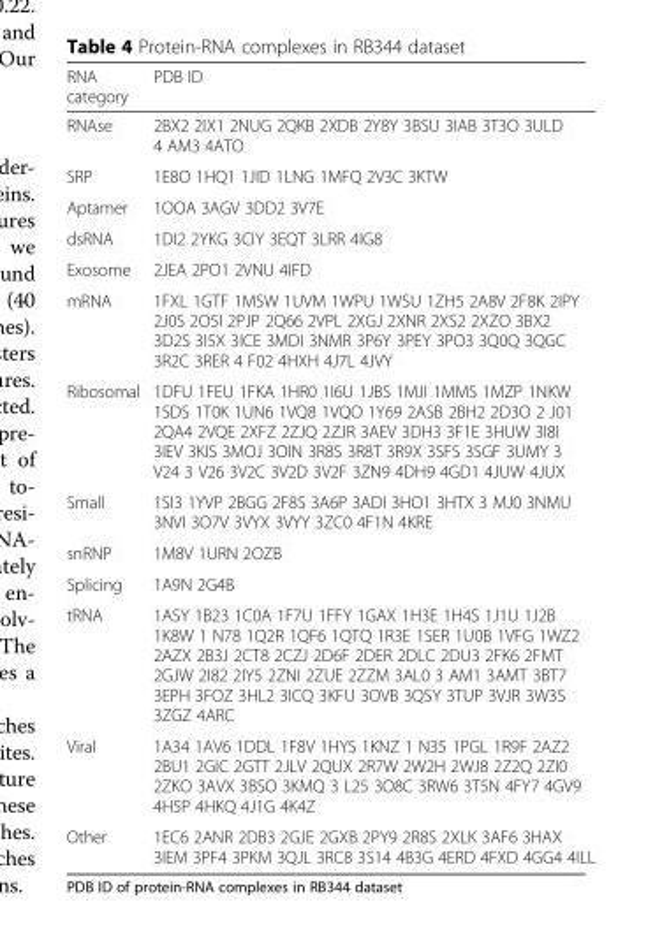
<table><thead><tr><td>RNA category</td><td>PDB ID</td></tr></thead><tbody><tr><td>RNAse</td><td>2BX2 2IX1 2NUG 2QKB 2XDB 2Y8Y 3BSU 3IAB 3T3O 3ULD 4 AM3 4ATO</td></tr><tr><td>SRP</td><td>1E8O 1HQ1 1JID 1LNG 1MFQ 2V3C 3KTW</td></tr><tr><td>Aptamer</td><td>1OOA 3AGV 3DD2 3V7E</td></tr><tr><td>dsRNA</td><td>1DI2 2YKG 3CIY 3EQT 3LRR 4IG8</td></tr><tr><td>Exosome</td><td>2JEA 2PO1 2VNU 4IFD</td></tr><tr><td>mRNA</td><td>1FXL 1GTF 1MSW 1UVM 1WPU 1WSU 1ZH5 2A8V 2F8K 2IPY 2J0S 2O5I 2PJP 2Q66 2VPL 2XGJ 2XNR 2XS2 2XZO 3BX2 3D2S 3I5X 3ICE 3MDI 3NMR 3P6Y 3PEY 3PO3 3Q0Q 3QGC 3R2C 3RER 4 F02 4HXH 4J7L 4JVY</td></tr><tr><td>Ribosomal</td><td>1DFU 1FEU 1FKA 1HR0 1I6U 1JBS 1MJI 1MMS 1MZP 1NKW 1SDS 1T0K 1UN6 1VQ8 1VQO 1Y69 2ASB 2BH2 2D3O 2 J01 2QA4 2VQE 2XFZ 2ZJQ 2ZJR 3AEV 3DH3 3F1E 3HUW 3I8I 3IEV 3KIS 3MOJ 3OIN 3R8S 3R8T 3R9X 3SFS 3SGF 3UMY 3 V24 3 V26 3V2C 3V2D 3V2F 3ZN9 4DH9 4GD1 4JUW 4JUX</td></tr><tr><td>Small</td><td>1SI3 1YVP 2BGG 2F8S 3A6P 3ADI 3HO1 3HTX 3 MJ0 3NMU 3NVI 3O7V 3VYX 3VYY 3ZC0 4F1N 4KRE</td></tr><tr><td>snRNP</td><td>1M8V 1URN 2OZB</td></tr><tr><td>Splicing</td><td>1A9N 2G4B</td></tr><tr><td>tRNA</td><td>1ASY 1B23 1C0A 1F7U 1FFY 1GAX 1H3E 1H4S 1J1U 1J2B 1K8W 1 N78 1Q2R 1QF6 1QTQ 1R3E 1SER 1U0B 1VFG 1WZ2 2AZX 2B3J 2CT8 2CZJ 2D6F 2DER 2DLC 2DU3 2FK6 2FMT 2GJW 2I82 2IY5 2ZNI 2ZUE 2ZZM 3AL0 3 AM1 3AMT 3BT7 3EPH 3FOZ 3HL2 3ICQ 3KFU 3OVB 3QSY 3TUP 3VJR 3W3S 3ZGZ 4ARC</td></tr><tr><td>Viral</td><td>1A34 1AV6 1DDL 1F8V 1HYS 1KNZ 1 N35 1PGL 1R9F 2AZ2 2BU1 2GIC 2GTT 2JLV 2QUX 2R7W 2W2H 2WJ8 2Z2Q 2ZI0 2ZKO 3AVX 3BSO 3KMQ 3 L25 3O8C 3RW6 3T5N 4FY7 4GV9 4H5P 4HKQ 4J1G 4K4Z</td></tr><tr><td>Other</td><td>1EC6 2ANR 2DB3 2GJE 2GXB 2PY9 2R8S 2XLK 3AF6 3HAX 3IEM 3PF4 3PKM 3QJL 3RC8 3S14 4B3G 4ERD 4FXD 4GG4 4ILL</td></tr></tbody></table>